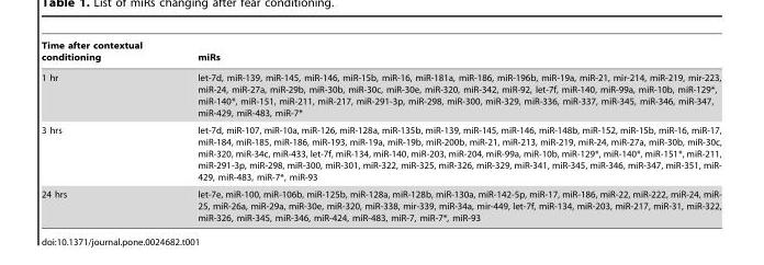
<table><thead><tr><td>Time after contextual conditioning</td><td>miRs</td></tr></thead><tbody><tr><td>1 hr</td><td>let-7d, miR-139, miR-145, miR-146, miR-15b, miR-16, miR-181a, miR-186, miR-196b, miR-19a, miR-21, mir-214, miR-219, mir-223, miR-24, miR-27a, miR-29b, miR-30b, miR-30c, miR-30e, miR-320, miR-342, miR-92, let-7f, miR-140, miR-99a, miR-10b, miR-129*, miR-140*, miR-151, miR-211, miR-217, miR-291-3p, miR-298, miR-300, miR-329, miR-336, miR-337, miR-345, miR-346, miR-347, miR-429, miR-483, miR-7*</td></tr><tr><td>3 hrs</td><td>let-7d, miR-107, miR-10a, miR-126, miR-128a, miR-135b, miR-139, miR-145, miR-146, miR-148b, miR-152, miR-15b, miR-16, miR-17, miR-184, miR-185, miR-186, miR-193, miR-19a, miR-19b, miR-200b, miR-21, miR-213, miR-219, miR-24, miR-27a, miR-30b, miR-30c, miR-320, miR-34c, miR-433, let-7f, miR-134, miR-140, miR-203, miR-204, miR-99a, miR-10b, miR-129*, miR-140*, miR-151*, miR-211, miR-291-3p, miR-298, miR-300, miR-301, miR-322, miR-325, miR-326, miR-329, miR-341, miR-345, miR-346, miR-347, miR-351, miR- 429, miR-483, miR-7*, miR-93</td></tr><tr><td>24 hrs</td><td>let-7e, miR-100, miR-106b, miR-125b, miR-128a, miR-128b, miR-130a, miR-142-5p, miR-17, miR-186, miR-22, miR-222, miR-24, miR- 25, miR-26a, miR-29a, miR-30e, miR-320, miR-338, mir-339, miR-34a, mir-449, let-7f, miR-134, miR-203, miR-217, miR-31, miR-322, miR-326, miR-345, miR-346, miR-424, miR-483, miR-7, miR-7*, miR-93</td></tr></tbody></table>